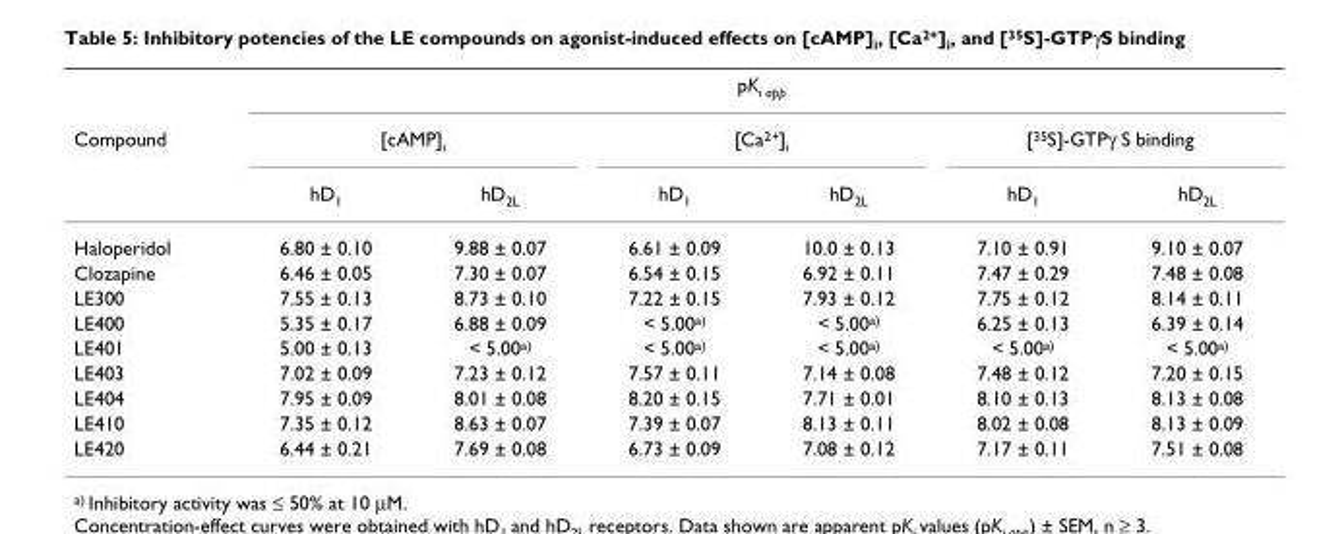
<table><thead><tr><td rowspan="3">Compound</td><td colspan="6">pK<sub>i app</sub></td></tr><tr><td colspan="2">[cAMP]<sub>i</sub></td><td colspan="2">[Ca<sup>2+</sup>]<sub>i</sub></td><td colspan="2">[<sup>35</sup>S]-GTPγ S binding</td></tr><tr><td>hD<sub>1</sub></td><td>hD<sub>2L</sub></td><td>hD<sub>1</sub></td><td>hD<sub>2L</sub></td><td>hD<sub>1</sub></td><td>hD<sub>2L</sub></td></tr></thead><tbody><tr><td>Haloperidol</td><td>6.80 ± 0.10</td><td>9.88 ± 0.07</td><td>6.61 ± 0.09</td><td>10.0 ± 0.13</td><td>7.10 ± 0.91</td><td>9.10 ± 0.07</td></tr><tr><td>Clozapine</td><td>6.46 ± 0.05</td><td>7.30 ± 0.07</td><td>6.54 ± 0.15</td><td>6.92 ± 0.11</td><td>7.47 ± 0.29</td><td>7.48 ± 0.08</td></tr><tr><td>LE300</td><td>7.55 ± 0.13</td><td>8.73 ± 0.10</td><td>7.22 ± 0.15</td><td>7.93 ± 0.12</td><td>7.75 ± 0.12</td><td>8.14 ± 0.11</td></tr><tr><td>LE400</td><td>5.35 ± 0.17</td><td>6.88 ± 0.09</td><td>&lt; 5.00<sup>a)</sup></td><td>&lt; 5.00<sup>a)</sup></td><td>6.25 ± 0.13</td><td>6.39 ± 0.14</td></tr><tr><td>LE401</td><td>5.00 ± 0.13</td><td>&lt; 5.00<sup>a)</sup></td><td>&lt; 5.00<sup>a)</sup></td><td>&lt; 5.00<sup>a)</sup></td><td>&lt; 5.00<sup>a)</sup></td><td>&lt; 5.00<sup>a)</sup></td></tr><tr><td>LE403</td><td>7.02 ± 0.09</td><td>7.23 ± 0.12</td><td>7.57 ± 0.11</td><td>7.14 ± 0.08</td><td>7.48 ± 0.12</td><td>7.20 ± 0.15</td></tr><tr><td>LE404</td><td>7.95 ± 0.09</td><td>8.01 ± 0.08</td><td>8.20 ± 0.15</td><td>7.71 ± 0.01</td><td>8.10 ± 0.13</td><td>8.13 ± 0.08</td></tr><tr><td>LE410</td><td>7.35 ± 0.12</td><td>8.63 ± 0.07</td><td>7.39 ± 0.07</td><td>8.13 ± 0.11</td><td>8.02 ± 0.08</td><td>8.13 ± 0.09</td></tr><tr><td>LE420</td><td>6.44 ± 0.21</td><td>7.69 ± 0.08</td><td>6.73 ± 0.09</td><td>7.08 ± 0.12</td><td>7.17 ± 0.11</td><td>7.51 ± 0.08</td></tr></tbody></table>